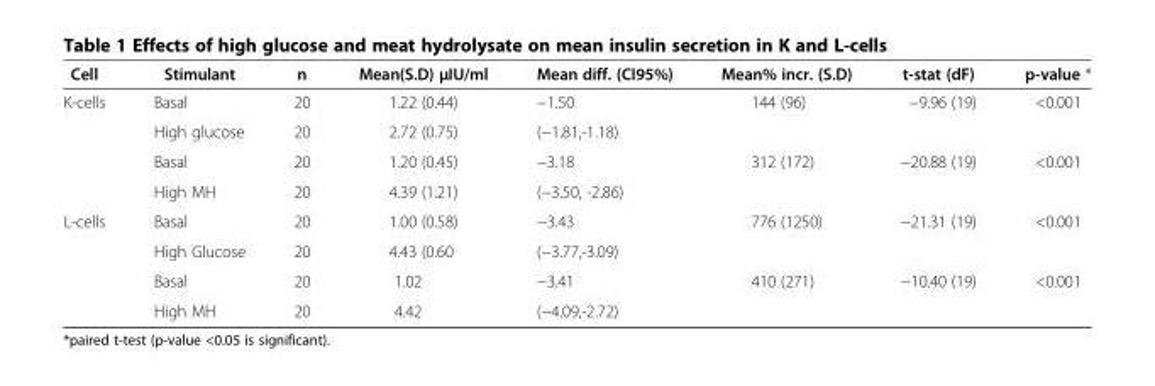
<table><thead><tr><td>Cell</td><td>Stimulant</td><td>n</td><td>Mean(S.D) μIU/ml</td><td>Mean diff. (CI95%)</td><td>Mean% incr. (S.D)</td><td>t-stat (dF)</td><td>p-value *</td></tr></thead><tbody><tr><td rowspan="4">K-cells</td><td>Basal</td><td>20</td><td>1.22 (0.44)</td><td>−1.50</td><td>144 (96)</td><td>−9.96 (19)</td><td>&lt;0.001</td></tr><tr><td>High glucose</td><td>20</td><td>2.72 (0.75)</td><td>(−1.81,-1.18)</td><td></td><td></td><td></td></tr><tr><td>Basal</td><td>20</td><td>1.20 (0.45)</td><td>−3.18</td><td>312 (172)</td><td>−20.88 (19)</td><td>&lt;0.001</td></tr><tr><td>High MH</td><td>20</td><td>4.39 (1.21)</td><td>(−3.50, -2.86)</td><td></td><td></td><td></td></tr><tr><td rowspan="4">L-cells</td><td>Basal</td><td>20</td><td>1.00 (0.58)</td><td>−3.43</td><td>776 (1250)</td><td>−21.31 (19)</td><td>&lt;0.001</td></tr><tr><td>High Glucose</td><td>20</td><td>4.43 (0.60</td><td>(−3.77,-3.09)</td><td></td><td></td><td></td></tr><tr><td>Basal</td><td>20</td><td>1.02</td><td>−3.41</td><td>410 (271)</td><td>−10.40 (19)</td><td>&lt;0.001</td></tr><tr><td>High MH</td><td>20</td><td>4.42</td><td>(−4.09,-2.72)</td><td></td><td></td><td></td></tr></tbody></table>